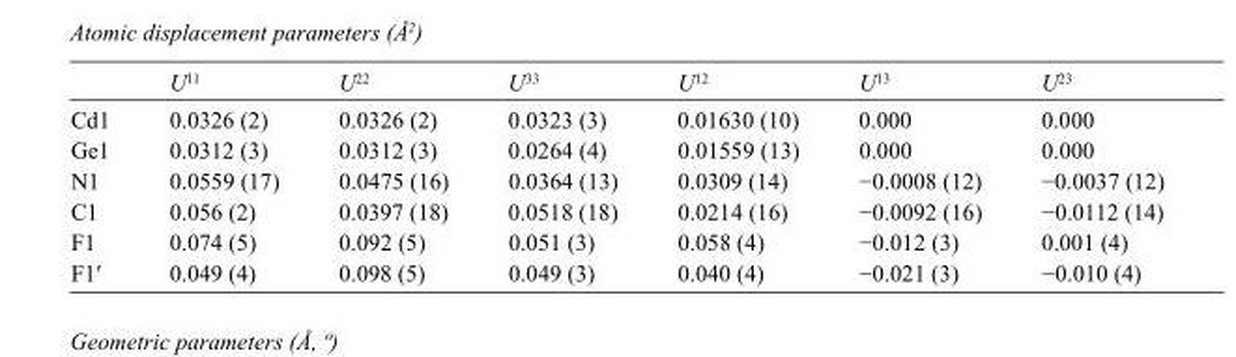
<table><thead><tr><td></td><td>U<sup>11</sup></td><td>U<sup>22</sup></td><td>U<sup>33</sup></td><td>U<sup>12</sup></td><td>U<sup>13</sup></td><td>U<sup>23</sup></td></tr></thead><tbody><tr><td>Cd1</td><td>0.0326 (2)</td><td>0.0326 (2)</td><td>0.0323 (3)</td><td>0.01630 (10)</td><td>0.000</td><td>0.000</td></tr><tr><td>Ge1</td><td>0.0312 (3)</td><td>0.0312 (3)</td><td>0.0264 (4)</td><td>0.01559 (13)</td><td>0.000</td><td>0.000</td></tr><tr><td>N1</td><td>0.0559 (17)</td><td>0.0475 (16)</td><td>0.0364 (13)</td><td>0.0309 (14)</td><td>−0.0008 (12)</td><td>−0.0037 (12)</td></tr><tr><td>C1</td><td>0.056 (2)</td><td>0.0397 (18)</td><td>0.0518 (18)</td><td>0.0214 (16)</td><td>−0.0092 (16)</td><td>−0.0112 (14)</td></tr><tr><td>F1</td><td>0.074 (5)</td><td>0.092 (5)</td><td>0.051 (3)</td><td>0.058 (4)</td><td>−0.012 (3)</td><td>0.001 (4)</td></tr><tr><td>F1′</td><td>0.049 (4)</td><td>0.098 (5)</td><td>0.049 (3)</td><td>0.040 (4)</td><td>−0.021 (3)</td><td>−0.010 (4)</td></tr></tbody></table>